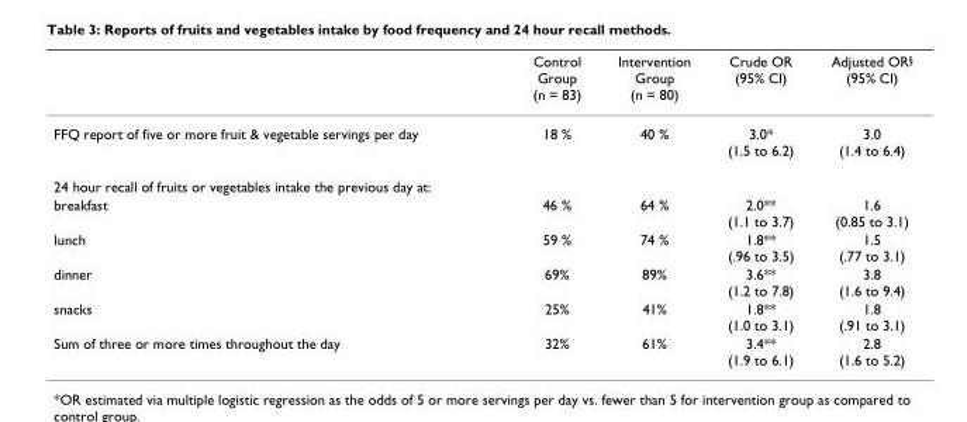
<table><thead><tr><td></td><td>Control Group (n = 83)</td><td>Intervention Group (n = 80)</td><td>Crude OR (95% CI)</td><td>Adjusted OR<sup>§</sup> (95% CI)</td></tr></thead><tbody><tr><td>FFQ report of five or more fruit &amp; vegetable servings per day</td><td>18 %</td><td>40 %</td><td>3.0* (1.5 to 6.2)</td><td>3.0 (1.4 to 6.4)</td></tr><tr><td colspan="5">24 hour recall of fruits or vegetables intake the previous day at:</td></tr><tr><td>breakfast</td><td>46 %</td><td>64 %</td><td>2.0** (1.1 to 3.7)</td><td>1.6 (0.85 to 3.1)</td></tr><tr><td>lunch</td><td>59 %</td><td>74 %</td><td>1.8** (.96 to 3.5)</td><td>1.5 (.77 to 3.1)</td></tr><tr><td>dinner</td><td>69%</td><td>89%</td><td>3.6** (1.2 to 7.8)</td><td>3.8 (1.6 to 9.4)</td></tr><tr><td>snacks</td><td>25%</td><td>41%</td><td>1.8** (1.0 to 3.1)</td><td>1.8 (.91 to 3.1)</td></tr><tr><td>Sum of three or more times throughout the day</td><td>32%</td><td>61%</td><td>3.4** (1.9 to 6.1)</td><td>2.8 (1.6 to 5.2)</td></tr></tbody></table>